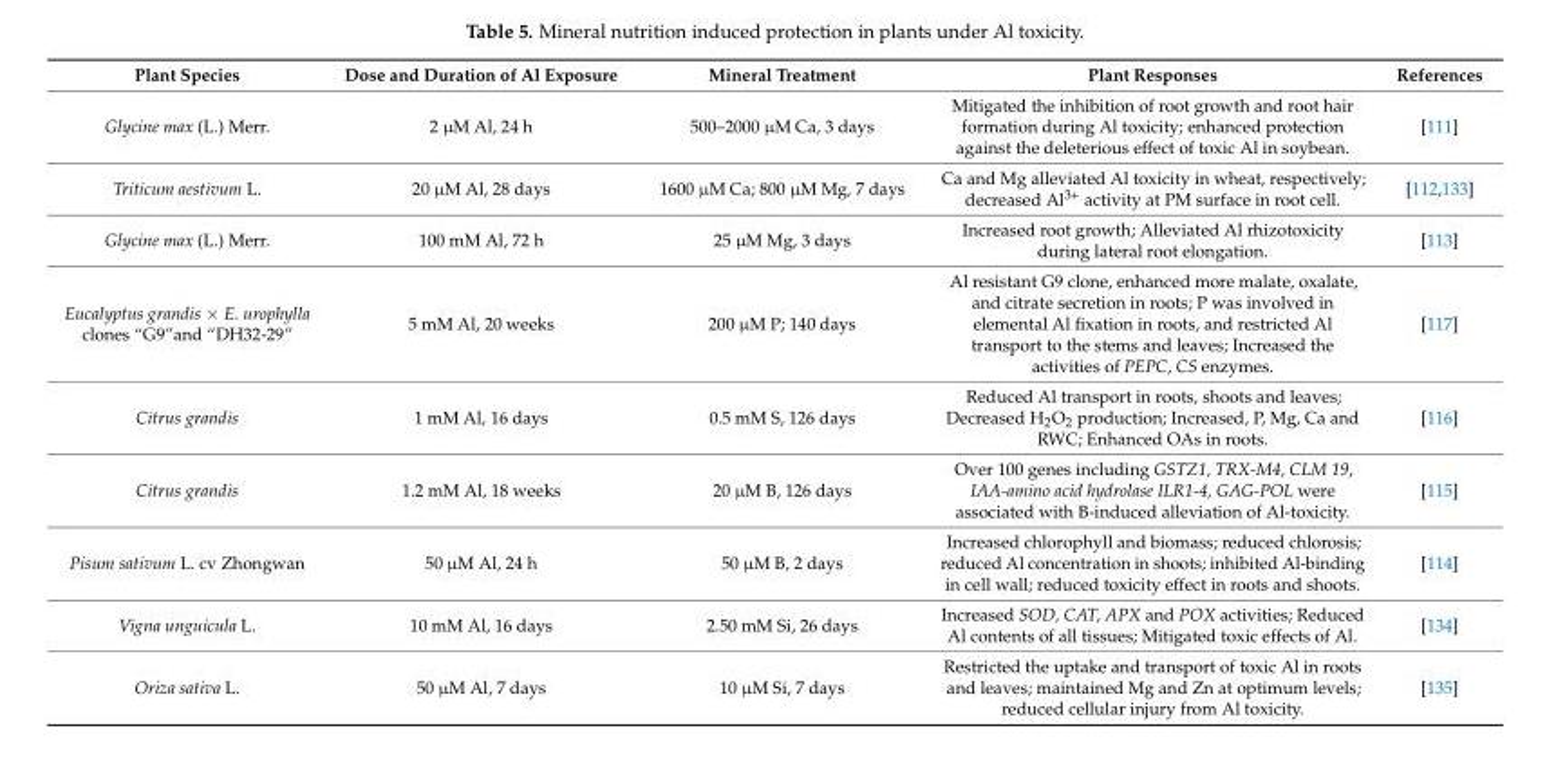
<table><thead><tr><td>Plant Species</td><td>Dose and Duration of Al Exposure</td><td>Mineral Treatment</td><td>Plant Responses</td><td>References</td></tr></thead><tbody><tr><td>Glycine max (L.) Merr.</td><td>2 µM Al, 24 h</td><td>500–2000 µM Ca, 3 days</td><td>Mitigated the inhibition of root growth and root hair formation during Al toxicity; enhanced protection against the deleterious effect of toxic Al in soybean.</td><td>[111]</td></tr><tr><td>Triticum aestivum L.</td><td>20 µM Al, 28 days</td><td>1600 µM Ca; 800 µM Mg, 7 days</td><td>Ca and Mg alleviated Al toxicity in wheat, respectively; decreased Al<sup>3+</sup> activity at PM surface in root cell.</td><td>[112,133]</td></tr><tr><td>Glycine max (L.) Merr.</td><td>100 mM Al, 72 h</td><td>25 µM Mg, 3 days</td><td>Increased root growth; Alleviated Al rhizotoxicity during lateral root elongation.</td><td>[113]</td></tr><tr><td>Eucalyptus grandis × E. urophylla clones “G9”and “DH32-29”</td><td>5 mM Al, 20 weeks</td><td>200 µM P; 140 days</td><td>Al resistant G9 clone, enhanced more malate, oxalate, and citrate secretion in roots; P was involved in elemental Al fixation in roots, and restricted Al transport to the stems and leaves; Increased the activities of PEPC, CS enzymes.</td><td>[117]</td></tr><tr><td>Citrus grandis</td><td>1 mM Al, 16 days</td><td>0.5 mM S, 126 days</td><td>Reduced Al transport in roots, shoots and leaves; Decreased H<sub>2</sub>O<sub>2</sub> production; Increased, P, Mg, Ca and RWC; Enhanced OAs in roots.</td><td>[116]</td></tr><tr><td>Citrus grandis</td><td>1.2 mM Al, 18 weeks</td><td>20 µM B, 126 days</td><td>Over 100 genes including GSTZ1, TRX-M4, CLM 19, IAA-amino acid hydrolase ILR1-4, GAG-POL were associated with B-induced alleviation of Al-toxicity.</td><td>[115]</td></tr><tr><td>Pisum sativum L. cv Zhongwan</td><td>50 µM Al, 24 h</td><td>50 µM B, 2 days</td><td>Increased chlorophyll and biomass; reduced chlorosis; reduced Al concentration in shoots; inhibited Al-binding in cell wall; reduced toxicity effect in roots and shoots.</td><td>[114]</td></tr><tr><td>Vigna unguicula L.</td><td>10 mM Al, 16 days</td><td>2.50 mM Si, 26 days</td><td>Increased SOD, CAT, APX and POX activities; Reduced Al contents of all tissues; Mitigated toxic effects of Al.</td><td>[134]</td></tr><tr><td>Oriza sativa L.</td><td>50 µM Al, 7 days</td><td>10 µM Si, 7 days</td><td>Restricted the uptake and transport of toxic Al in roots and leaves; maintained Mg and Zn at optimum levels; reduced cellular injury from Al toxicity.</td><td>[135]</td></tr></tbody></table>